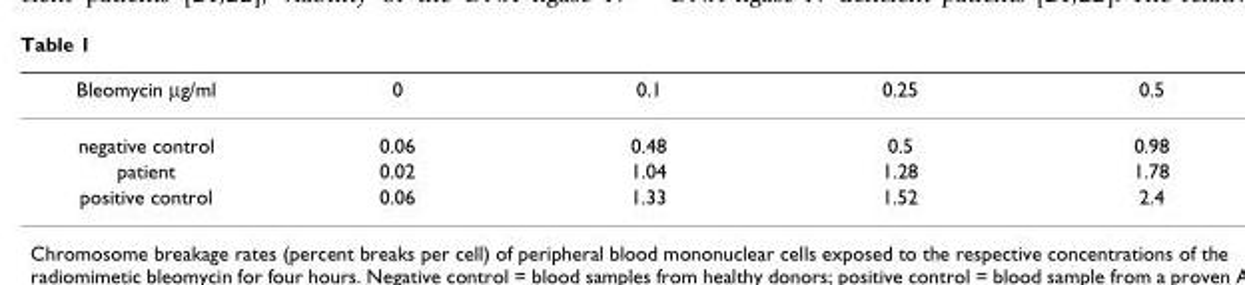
<table><thead><tr><td>Bleomycin μg/ml</td><td>0</td><td>0.1</td><td>0.25</td><td>0.5</td></tr></thead><tbody><tr><td>negative control</td><td>0.06</td><td>0.48</td><td>0.5</td><td>0.98</td></tr><tr><td>patient</td><td>0.02</td><td>1.04</td><td>1.28</td><td>1.78</td></tr><tr><td>positive control</td><td>0.06</td><td>1.33</td><td>1.52</td><td>2.4</td></tr></tbody></table>